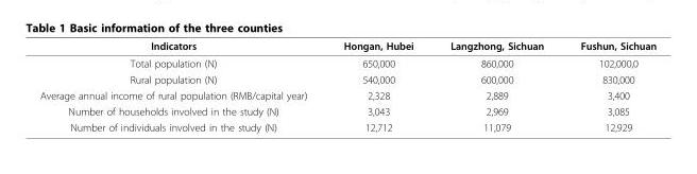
<table><tbody><tr><td>Indicators</td><td>Hongan, Hubei</td><td>Langzhong, Sichuan</td><td>Fushun, Sichuan</td></tr><tr><td>Total population (N)</td><td>650,000</td><td>860,000</td><td>102,000,0</td></tr><tr><td>Rural population (N)</td><td>540,000</td><td>600,000</td><td>830,000</td></tr><tr><td>Average annual income of rural population (RMB/capital year)</td><td>2,328</td><td>2,889</td><td>3,400</td></tr><tr><td>Number of households involved in the study (N)</td><td>3,043</td><td>2,969</td><td>3,085</td></tr><tr><td>Number of individuals involved in the study (N)</td><td>12,712</td><td>11,079</td><td>12,929</td></tr></tbody></table>